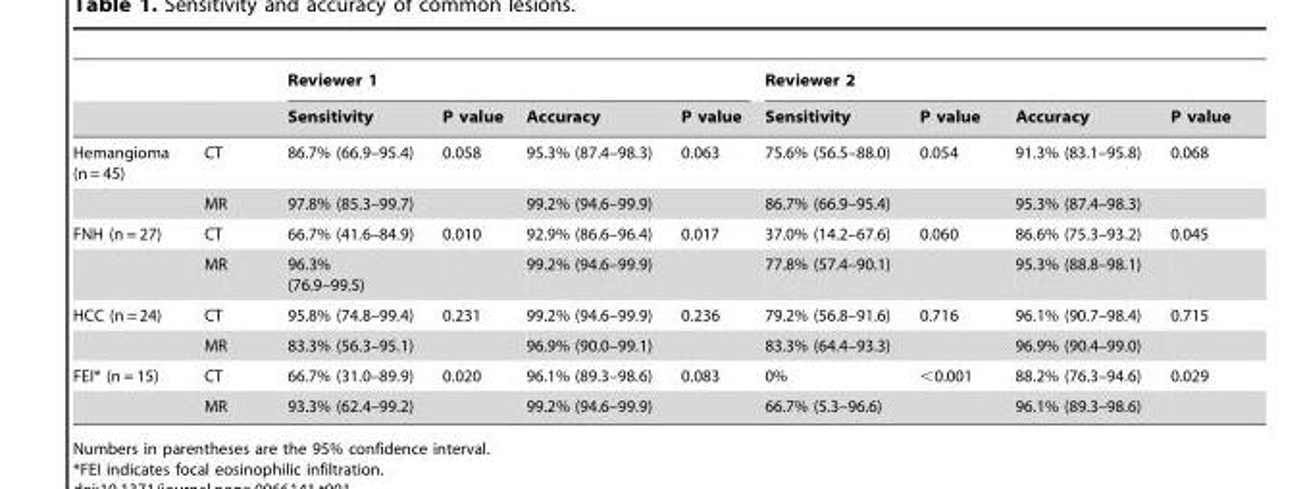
<table><thead><tr><td rowspan="2"></td><td rowspan="2"></td><td colspan="4">Reviewer 1</td><td colspan="4">Reviewer 2</td></tr><tr><td>Sensitivity</td><td>P value</td><td>Accuracy</td><td>P value</td><td>Sensitivity</td><td>P value</td><td>Accuracy</td><td>P value</td></tr></thead><tbody><tr><td rowspan="2">Hemangioma (n = 45)</td><td>CT</td><td>86.7% (66.9–95.4)</td><td>0.058</td><td>95.3% (87.4–98.3)</td><td>0.063</td><td>75.6% (56.5–88.0)</td><td>0.054</td><td>91.3% (83.1–95.8)</td><td>0.068</td></tr><tr><td>MR</td><td>97.8% (85.3–99.7)</td><td></td><td>99.2% (94.6–99.9)</td><td></td><td>86.7% (66.9–95.4)</td><td></td><td>95.3% (87.4–98.3)</td><td></td></tr><tr><td rowspan="2">FNH (n = 27)</td><td>CT</td><td>66.7% (41.6–84.9)</td><td>0.010</td><td>92.9% (86.6–96.4)</td><td>0.017</td><td>37.0% (14.2–67.6)</td><td>0.060</td><td>86.6% (75.3–93.2)</td><td>0.045</td></tr><tr><td>MR</td><td>96.3% (76.9–99.5)</td><td></td><td>99.2% (94.6–99.9)</td><td></td><td>77.8% (57.4–90.1)</td><td></td><td>95.3% (88.8–98.1)</td><td></td></tr><tr><td rowspan="2">HCC (n = 24)</td><td>CT</td><td>95.8% (74.8–99.4)</td><td>0.231</td><td>99.2% (94.6–99.9)</td><td>0.236</td><td>79.2% (56.8–91.6)</td><td>0.716</td><td>96.1% (90.7–98.4)</td><td>0.715</td></tr><tr><td>MR</td><td>83.3% (56.3–95.1)</td><td></td><td>96.9% (90.0–99.1)</td><td></td><td>83.3% (64.4–93.3)</td><td></td><td>96.9% (90.4–99.0)</td><td></td></tr><tr><td rowspan="2">FEI* (n = 15)</td><td>CT</td><td>66.7% (31.0–89.9)</td><td>0.020</td><td>96.1% (89.3–98.6)</td><td>0.083</td><td>0%</td><td>&lt;0.001</td><td>88.2% (76.3–94.6)</td><td>0.029</td></tr><tr><td>MR</td><td>93.3% (62.4–99.2)</td><td></td><td>99.2% (94.6–99.9)</td><td></td><td>66.7% (5.3–96.6)</td><td></td><td>96.1% (89.3–98.6)</td><td></td></tr></tbody></table>